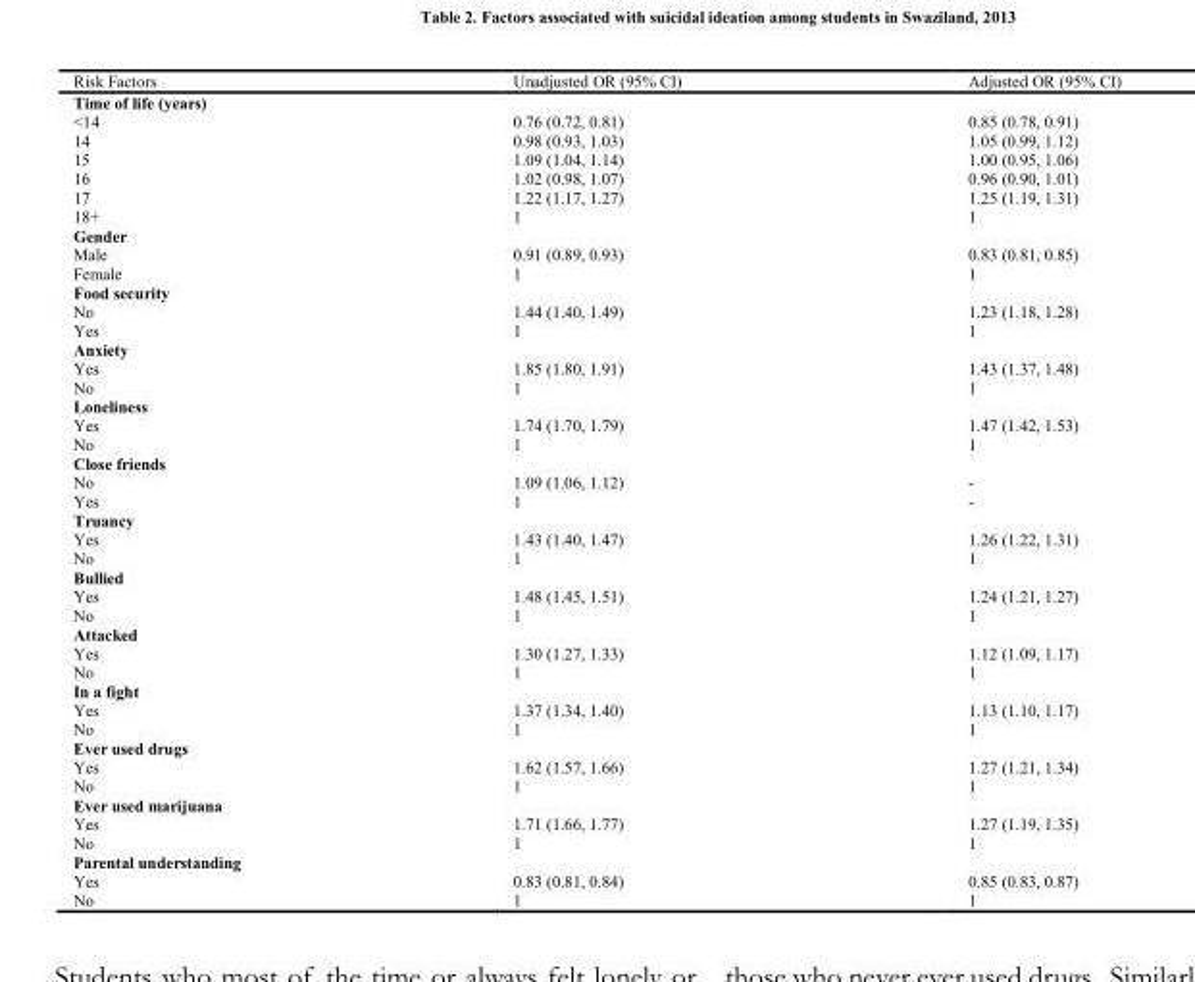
<table><thead><tr><td>Risk Factors</td><td>Unadjusted OR (95% CI)</td><td>Adjusted OR (95% CI)</td></tr></thead><tbody><tr><td colspan="3">Time of life (years)</td></tr><tr><td>&lt;14</td><td>0.76 (0.72, 0.81)</td><td>0.85 (0.78, 0.91)</td></tr><tr><td>14</td><td>0.98 (0.93, 1.03)</td><td>1.05 (0.99, 1.12)</td></tr><tr><td>15</td><td>1.09 (1.04, 1.14)</td><td>1.00 (0.95, 1.06)</td></tr><tr><td>16</td><td>1.02 (0.98, 1.07)</td><td>0.96 (0.90, 1.01)</td></tr><tr><td>17</td><td>1.22 (1.17, 1.27)</td><td>1.25 (1.19, 1.31)</td></tr><tr><td>18+</td><td>1</td><td>1</td></tr><tr><td colspan="3">Gender</td></tr><tr><td>Male</td><td>0.91 (0.89, 0.93)</td><td>0.83 (0.81, 0.85)</td></tr><tr><td>Female</td><td>1</td><td>1</td></tr><tr><td colspan="3">Food security</td></tr><tr><td>No</td><td>1.44 (1.40, 1.49)</td><td>1.23 (1.18, 1.28)</td></tr><tr><td>Yes</td><td>1</td><td>1</td></tr><tr><td colspan="3">Anxiety</td></tr><tr><td>Yes</td><td>1.85 (1.80, 1.91)</td><td>1.43 (1.37, 1.48)</td></tr><tr><td>No</td><td>1</td><td>1</td></tr><tr><td colspan="3">Loneliness</td></tr><tr><td>Yes</td><td>1.74 (1.70, 1.79)</td><td>1.47 (1.42, 1.53)</td></tr><tr><td>No</td><td>1</td><td>1</td></tr><tr><td colspan="3">Close friends</td></tr><tr><td>No</td><td>1.09 (1.06, 1.12)</td><td>-</td></tr><tr><td>Yes</td><td>1</td><td>-</td></tr><tr><td colspan="3">Truancy</td></tr><tr><td>Yes</td><td>1.43 (1.40, 1.47)</td><td>1.26 (1.22, 1.31)</td></tr><tr><td>No</td><td>1</td><td>1</td></tr><tr><td colspan="3">Bullied</td></tr><tr><td>Yes</td><td>1.48 (1.45, 1.51)</td><td>1.24 (1.21, 1.27)</td></tr><tr><td>No</td><td>1</td><td>1</td></tr><tr><td colspan="3">Attacked</td></tr><tr><td>Yes</td><td>1.30 (1.27, 1.33)</td><td>1.12 (1.09, 1.17)</td></tr><tr><td>No</td><td>1</td><td>1</td></tr><tr><td colspan="3">In a fight</td></tr><tr><td>Yes</td><td>1.37 (1.34, 1.40)</td><td>1.13 (1.10, 1.17)</td></tr><tr><td>No</td><td>1</td><td>1</td></tr><tr><td colspan="3">Ever used drugs</td></tr><tr><td>Yes</td><td>1.62 (1.57, 1.66)</td><td>1.27 (1.21, 1.34)</td></tr><tr><td>No</td><td>1</td><td>1</td></tr><tr><td colspan="3">Ever used marijuana</td></tr><tr><td>Yes</td><td>1.71 (1.66, 1.77)</td><td>1.27 (1.19, 1.35)</td></tr><tr><td>No</td><td>1</td><td>1</td></tr><tr><td colspan="3">Parental understanding</td></tr><tr><td>Yes</td><td>0.83 (0.81, 0.84)</td><td>0.85 (0.83, 0.87)</td></tr><tr><td>No</td><td>1</td><td>1</td></tr></tbody></table>